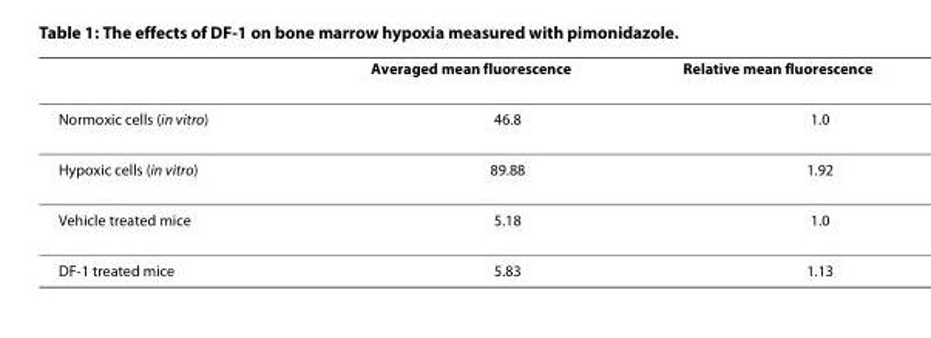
<table><thead><tr><td></td><td>Averaged mean fluorescence</td><td>Relative mean fluorescence</td></tr></thead><tbody><tr><td>Normoxic cells (in vitro)</td><td>46.8</td><td>1.0</td></tr><tr><td>Hypoxic cells (in vitro)</td><td>89.88</td><td>1.92</td></tr><tr><td>Vehicle treated mice</td><td>5.18</td><td>1.0</td></tr><tr><td>DF-1 treated mice</td><td>5.83</td><td>1.13</td></tr></tbody></table>